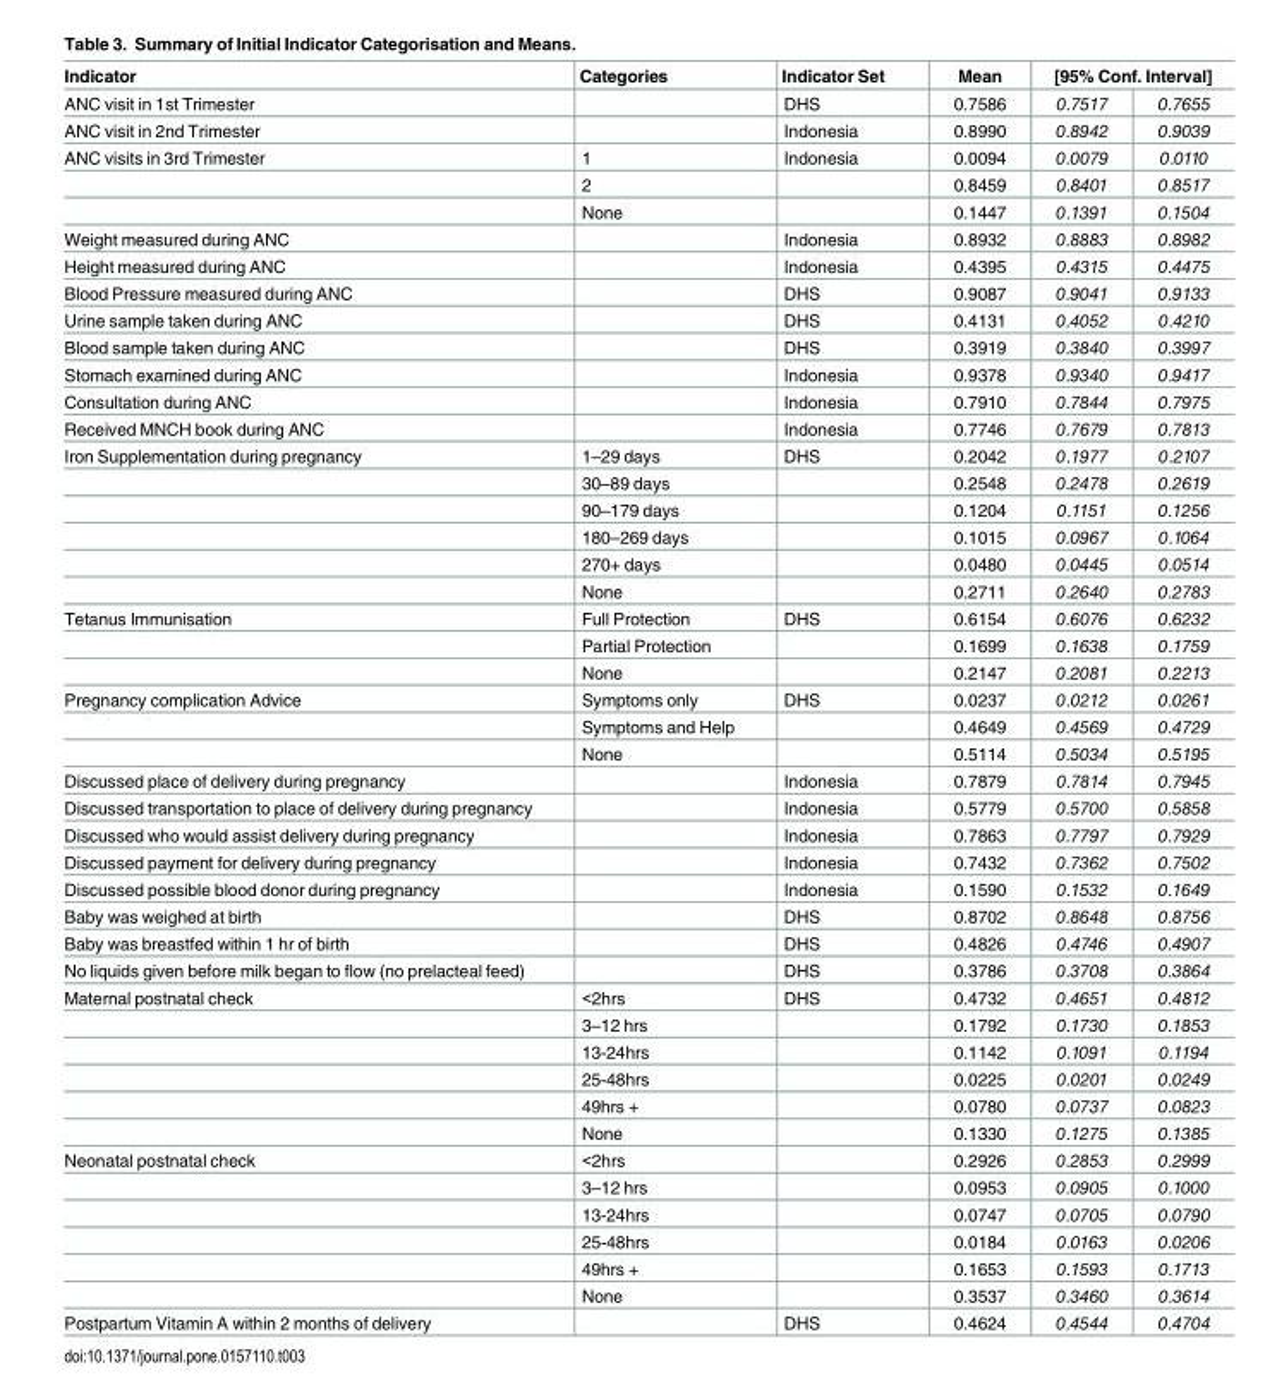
<table><thead><tr><td rowspan="2">Indicator ANC visit in 1st Trimester</td><td rowspan="2">Categories</td><td rowspan="2">Indicator Set DHS</td><td rowspan="2">Mean 0.7586</td><td colspan="2">[95% Conf. Interval]</td></tr><tr><td>0.7517</td><td>0.7655</td></tr></thead><tbody><tr><td>ANC visit in 2nd Trimester</td><td></td><td>Indonesia</td><td>0.8990</td><td>0.8942</td><td>0.9039</td></tr><tr><td rowspan="3">ANC visits in 3rd Trimester</td><td>1</td><td>Indonesia</td><td>0.0094</td><td>0.0079</td><td>0.0110</td></tr><tr><td>2</td><td></td><td>0.8459</td><td>0.8401</td><td>0.8517</td></tr><tr><td>None</td><td></td><td>0.1447</td><td>0.1391</td><td>0.1504</td></tr><tr><td>Weight measured during ANC</td><td></td><td>Indonesia</td><td>0.8932</td><td>0.8883</td><td>0.8982</td></tr><tr><td>Height measured during ANC</td><td></td><td>Indonesia</td><td>0.4395</td><td>0.4315</td><td>0.4475</td></tr><tr><td>Blood Pressure measured during ANC</td><td></td><td>DHS</td><td>0.9087</td><td>0.9041</td><td>0.9133</td></tr><tr><td>Urine sample taken during ANC</td><td></td><td>DHS</td><td>0.4131</td><td>0.4052</td><td>0.4210</td></tr><tr><td>Blood sample taken during ANC</td><td></td><td>DHS</td><td>0.3919</td><td>0.3840</td><td>0.3997</td></tr><tr><td>Stomach examined during ANC</td><td></td><td>Indonesia</td><td>0.9378</td><td>0.9340</td><td>0.9417</td></tr><tr><td>Consultation during ANC</td><td></td><td>Indonesia</td><td>0.7910</td><td>0.7844</td><td>0.7975</td></tr><tr><td>Received MNCH book during ANC</td><td></td><td>Indonesia</td><td>0.7746</td><td>0.7679</td><td>0.7813</td></tr><tr><td rowspan="6">Iron Supplementation during pregnancy</td><td>1–29 days</td><td>DHS</td><td>0.2042</td><td>0.1977</td><td>0.2107</td></tr><tr><td>30–89 days</td><td></td><td>0.2548</td><td>0.2478</td><td>0.2619</td></tr><tr><td>90–179 days</td><td></td><td>0.1204</td><td>0.1151</td><td>0.1256</td></tr><tr><td>180–269 days</td><td></td><td>0.1015</td><td>0.0967</td><td>0.1064</td></tr><tr><td>270+ days</td><td></td><td>0.0480</td><td>0.0445</td><td>0.0514</td></tr><tr><td>None</td><td></td><td>0.2711</td><td>0.2640</td><td>0.2783</td></tr><tr><td rowspan="3">Tetanus Immunisation</td><td>Full Protection</td><td>DHS</td><td>0.6154</td><td>0.6076</td><td>0.6232</td></tr><tr><td>Partial Protection</td><td></td><td>0.1699</td><td>0.1638</td><td>0.1759</td></tr><tr><td>None</td><td></td><td>0.2147</td><td>0.2081</td><td>0.2213</td></tr><tr><td rowspan="3">Pregnancy complication Advice</td><td>Symptoms only</td><td>DHS</td><td>0.0237</td><td>0.0212</td><td>0.0261</td></tr><tr><td>Symptoms and Help</td><td></td><td>0.4649</td><td>0.4569</td><td>0.4729</td></tr><tr><td>None</td><td></td><td>0.5114</td><td>0.5034</td><td>0.5195</td></tr><tr><td>Discussed place of delivery during pregnancy</td><td></td><td>Indonesia</td><td>0.7879</td><td>0.7814</td><td>0.7945</td></tr><tr><td>Discussed transportation to place of delivery during pregnancy</td><td></td><td>Indonesia</td><td>0.5779</td><td>0.5700</td><td>0.5858</td></tr><tr><td>Discussed who would assist delivery during pregnancy</td><td></td><td>Indonesia</td><td>0.7863</td><td>0.7797</td><td>0.7929</td></tr><tr><td>Discussed payment for delivery during pregnancy</td><td></td><td>Indonesia</td><td>0.7432</td><td>0.7362</td><td>0.7502</td></tr><tr><td>Discussed possible blood donor during pregnancy</td><td></td><td>Indonesia</td><td>0.1590</td><td>0.1532</td><td>0.1649</td></tr><tr><td>Baby was weighed at birth</td><td></td><td>DHS</td><td>0.8702</td><td>0.8648</td><td>0.8756</td></tr><tr><td>Baby was breastfed within 1 hr of birth</td><td></td><td>DHS</td><td>0.4826</td><td>0.4746</td><td>0.4907</td></tr><tr><td>No liquids given before milk began to flow (no prelacteal feed)</td><td></td><td>DHS</td><td>0.3786</td><td>0.3708</td><td>0.3864</td></tr><tr><td rowspan="6">Maternal postnatal check</td><td>&lt;2hrs</td><td>DHS</td><td>0.4732</td><td>0.4651</td><td>0.4812</td></tr><tr><td>3–12 hrs</td><td></td><td>0.1792</td><td>0.1730</td><td>0.1853</td></tr><tr><td>13-24hrs</td><td></td><td>0.1142</td><td>0.1091</td><td>0.1194</td></tr><tr><td>25-48hrs</td><td></td><td>0.0225</td><td>0.0201</td><td>0.0249</td></tr><tr><td>49hrs +</td><td></td><td>0.0780</td><td>0.0737</td><td>0.0823</td></tr><tr><td>None</td><td></td><td>0.1330</td><td>0.1275</td><td>0.1385</td></tr><tr><td rowspan="6">Neonatal postnatal check</td><td>&lt;2hrs</td><td></td><td>0.2926</td><td>0.2853</td><td>0.2999</td></tr><tr><td>3–12 hrs</td><td></td><td>0.0953</td><td>0.0905</td><td>0.1000</td></tr><tr><td>13-24hrs</td><td></td><td>0.0747</td><td>0.0705</td><td>0.0790</td></tr><tr><td>25-48hrs</td><td></td><td>0.0184</td><td>0.0163</td><td>0.0206</td></tr><tr><td>49hrs +</td><td></td><td>0.1653</td><td>0.1593</td><td>0.1713</td></tr><tr><td>None</td><td></td><td>0.3537</td><td>0.3460</td><td>0.3614</td></tr><tr><td>Postpartum Vitamin A within 2 months of delivery</td><td></td><td>DHS</td><td>0.4624</td><td>0.4544</td><td>0.4704</td></tr></tbody></table>